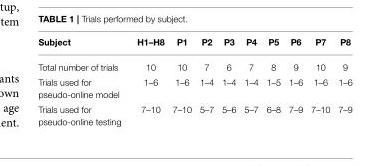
<table><thead><tr><td>Subject</td><td>H1–H8</td><td>P1</td><td>P2</td><td>P3</td><td>P4</td><td>P5</td><td>P6</td><td>P7</td><td>P8</td></tr></thead><tbody><tr><td>Total number of trials</td><td>10</td><td>10</td><td>7</td><td>6</td><td>7</td><td>8</td><td>9</td><td>10</td><td>9</td></tr><tr><td>Trials used for pseudo-online model</td><td>1–6</td><td>1–6</td><td>1–4</td><td>1–4</td><td>1–4</td><td>1–5</td><td>1–6</td><td>1–6</td><td>1–6</td></tr><tr><td>Trials used for pseudo-online testing</td><td>7–10</td><td>7–10</td><td>5–7</td><td>5–6</td><td>5–7</td><td>6–8</td><td>7–9</td><td>7–10</td><td>7–9</td></tr></tbody></table>